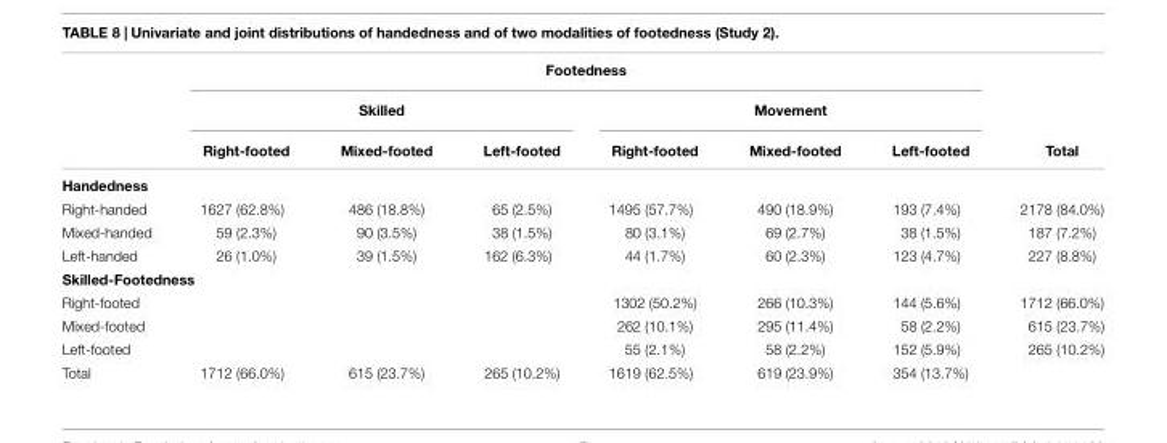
<table><thead><tr><td rowspan="3"></td><td colspan="6">Footedness</td><td rowspan="3">Total</td></tr><tr><td colspan="3">Skilled</td><td colspan="3">Movement</td></tr><tr><td>Right-footed</td><td>Mixed-footed</td><td>Left-footed</td><td>Right-footed</td><td>Mixed-footed</td><td>Left-footed</td></tr></thead><tbody><tr><td colspan="8">Handedness</td></tr><tr><td>Right-handed</td><td>1627 (62.8%)</td><td>486 (18.8%)</td><td>65 (2.5%)</td><td>1495 (57.7%)</td><td>490 (18.9%)</td><td>193 (7.4%)</td><td>2178 (84.0%)</td></tr><tr><td>Mixed-handed</td><td>59 (2.3%)</td><td>90 (3.5%)</td><td>38 (1.5%)</td><td>80 (3.1%)</td><td>69 (2.7%)</td><td>38 (1.5%)</td><td>187 (7.2%)</td></tr><tr><td>Left-handed</td><td>26 (1.0%)</td><td>39 (1.5%)</td><td>162 (6.3%)</td><td>44 (1.7%)</td><td>60 (2.3%)</td><td>123 (4.7%)</td><td>227 (8.8%)</td></tr><tr><td colspan="8">Skilled-Footedness</td></tr><tr><td>Right-footed</td><td></td><td></td><td></td><td>1302 (50.2%)</td><td>266 (10.3%)</td><td>144 (5.6%)</td><td>1712 (66.0%)</td></tr><tr><td>Mixed-footed</td><td></td><td></td><td></td><td>262 (10.1%)</td><td>295 (11.4%)</td><td>58 (2.2%)</td><td>615 (23.7%)</td></tr><tr><td>Left-footed</td><td></td><td></td><td></td><td>55 (2.1%)</td><td>58 (2.2%)</td><td>152 (5.9%)</td><td>265 (10.2%)</td></tr><tr><td>Total</td><td>1712 (66.0%)</td><td>615 (23.7%)</td><td>265 (10.2%)</td><td>1619 (62.5%)</td><td>619 (23.9%)</td><td>354 (13.7%)</td><td></td></tr></tbody></table>